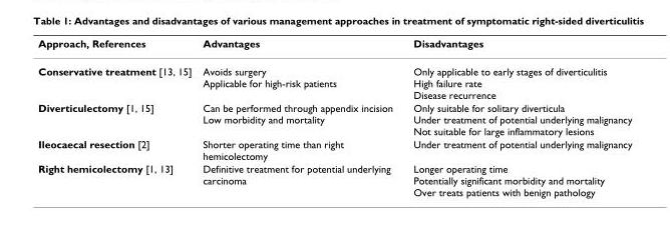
<table><thead><tr><td>Approach, References</td><td>Advantages</td><td>Disadvantages</td></tr></thead><tbody><tr><td>Conservative treatment [13, 15]</td><td>Avoids surgery Applicable for high-risk patients</td><td>Only applicable to early stages of diverticulitis High failure rate Disease recurrence</td></tr><tr><td>Diverticulectomy [1, 15]</td><td>Can be performed through appendix incision Low morbidity and mortality</td><td>Only suitable for solitary diverticula Under treatment of potential underlying malignancy Not suitable for large inflammatory lesions</td></tr><tr><td>Ileocaecal resection [2]</td><td>Shorter operating time than right hemicolectomy</td><td>Under treatment of potential underlying malignancy</td></tr><tr><td>Right hemicolectomy [1, 13]</td><td>Definitive treatment for potential underlying carcinoma</td><td>Longer operating time Potentially significant morbidity and mortality Over treats patients with benign pathology</td></tr></tbody></table>